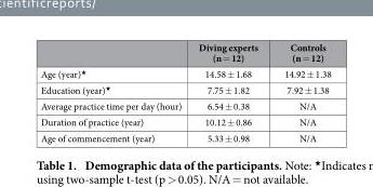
<table><thead><tr><td></td><td>Diving experts (n = 12)</td><td>Controls (n = 12)</td></tr></thead><tbody><tr><td>Age (year)<sup>★</sup></td><td>14.58 ± 1.68</td><td>14.92 ± 1.38</td></tr><tr><td>Education (year)<sup>★</sup></td><td>7.75 ± 1.82</td><td>7.92 ± 1.38</td></tr><tr><td>Average practice time per day (hour)</td><td>6.54 ± 0.38</td><td>N/A</td></tr><tr><td>Duration of practice (year)</td><td>10.12 ± 0.86</td><td>N/A</td></tr><tr><td>Age of commencement (year)</td><td>5.33 ± 0.98</td><td>N/A</td></tr></tbody></table>